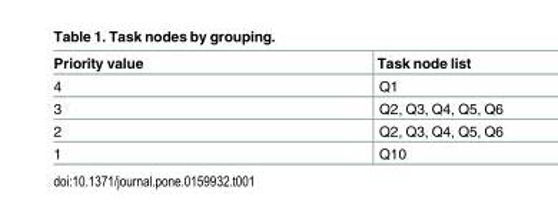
<table><thead><tr><td>Priority value</td><td>Task node list</td></tr></thead><tbody><tr><td>4</td><td>Q1</td></tr><tr><td>3</td><td>Q2, Q3, Q4, Q5, Q6</td></tr><tr><td>2</td><td>Q2, Q3, Q4, Q5, Q6</td></tr><tr><td>1</td><td>Q10</td></tr></tbody></table>